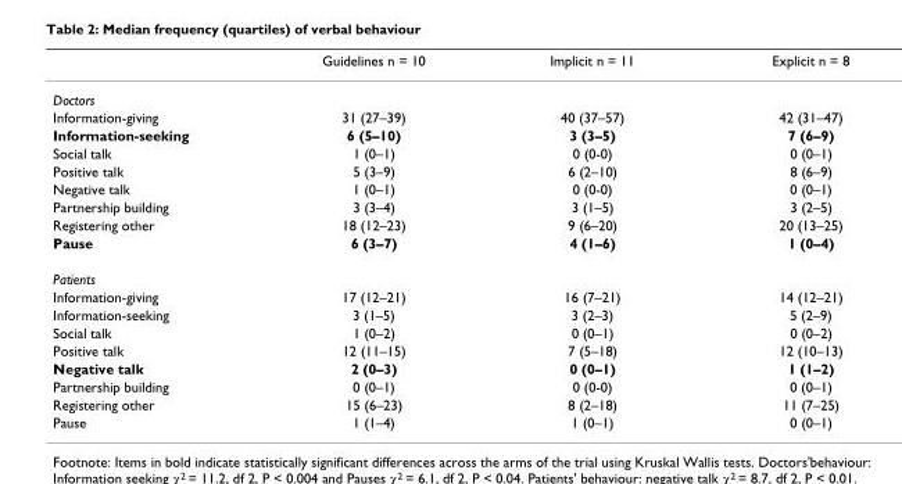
<table><thead><tr><td></td><td>Guidelines n = 10</td><td>Implicit n = 11</td><td>Explicit n = 8</td></tr></thead><tbody><tr><td colspan="4">Doctors</td></tr><tr><td>Information-giving</td><td>31 (27–39)</td><td>40 (37–57)</td><td>42 (31–47)</td></tr><tr><td>Information-seeking</td><td>6 (5–10)</td><td>3 (3–5)</td><td>7 (6–9)</td></tr><tr><td>Social talk</td><td>1 (0–1)</td><td>0 (0-0)</td><td>0 (0–1)</td></tr><tr><td>Positive talk</td><td>5 (3–9)</td><td>6 (2–10)</td><td>8 (6–9)</td></tr><tr><td>Negative talk</td><td>1 (0–1)</td><td>0 (0-0)</td><td>0 (0–1)</td></tr><tr><td>Partnership building</td><td>3 (3–4)</td><td>3 (1–5)</td><td>3 (2–5)</td></tr><tr><td>Registering other</td><td>18 (12–23)</td><td>9 (6–20)</td><td>20 (13–25)</td></tr><tr><td>Pause</td><td>6 (3–7)</td><td>4 (1–6)</td><td>1 (0–4)</td></tr><tr><td colspan="4">Patients</td></tr><tr><td>Information-giving</td><td>17 (12–21)</td><td>16 (7–21)</td><td>14 (12–21)</td></tr><tr><td>Information-seeking</td><td>3 (1–5)</td><td>3 (2–3)</td><td>5 (2–9)</td></tr><tr><td>Social talk</td><td>1 (0–2)</td><td>0 (0–1)</td><td>0 (0–2)</td></tr><tr><td>Positive talk</td><td>12 (11–15)</td><td>7 (5–18)</td><td>12 (10–13)</td></tr><tr><td>Negative talk</td><td>2 (0–3)</td><td>0 (0–1)</td><td>1 (1–2)</td></tr><tr><td>Partnership building</td><td>0 (0–1)</td><td>0 (0-0)</td><td>0 (0–1)</td></tr><tr><td>Registering other</td><td>15 (6–23)</td><td>8 (2–18)</td><td>11 (7–25)</td></tr><tr><td>Pause</td><td>1 (1–4)</td><td>1 (0–1)</td><td>0 (0–1)</td></tr></tbody></table>